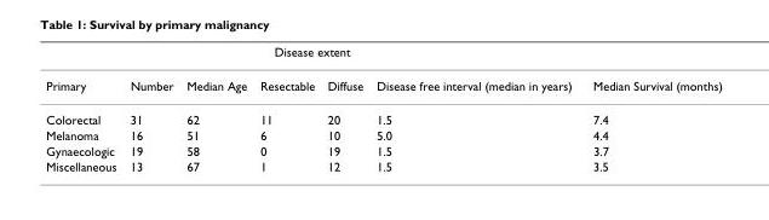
<table><thead><tr><td rowspan="2">Primary</td><td rowspan="2">Number</td><td rowspan="2">Median Age</td><td colspan="2">Disease extent</td><td rowspan="2">Disease free interval (median in years)</td><td rowspan="2">Median Survival (months)</td></tr><tr><td>Resectable</td><td>Diffuse</td></tr></thead><tbody><tr><td>Colorectal</td><td>31</td><td>62</td><td>11</td><td>20</td><td>1.5</td><td>7.4</td></tr><tr><td>Melanoma</td><td>16</td><td>51</td><td>6</td><td>10</td><td>5.0</td><td>4.4</td></tr><tr><td>Gynaecologic</td><td>19</td><td>58</td><td>0</td><td>19</td><td>1.5</td><td>3.7</td></tr><tr><td>Miscellaneous</td><td>13</td><td>67</td><td>1</td><td>12</td><td>1.5</td><td>3.5</td></tr></tbody></table>